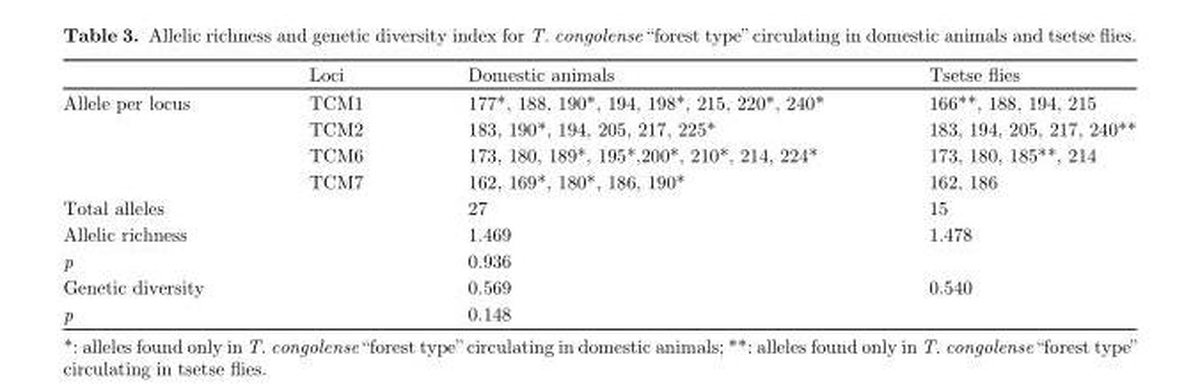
<table><thead><tr><td></td><td>Loci</td><td>Domestic animals</td><td>Tsetse flies</td></tr></thead><tbody><tr><td rowspan="4">Allele per locus</td><td>TCM1</td><td>177*, 188, 190*, 194, 198*, 215, 220*, 240*</td><td>166**, 188, 194, 215</td></tr><tr><td>TCM2</td><td>183, 190*, 194, 205, 217, 225*</td><td>183, 194, 205, 217, 240**</td></tr><tr><td>TCM6</td><td>173, 180, 189*, 195*,200*, 210*, 214, 224*</td><td>173, 180, 185**, 214</td></tr><tr><td>TCM7</td><td>162, 169*, 180*, 186, 190*</td><td>162, 186</td></tr><tr><td>Total alleles</td><td></td><td>27</td><td>15</td></tr><tr><td>Allelic richness</td><td></td><td>1.469</td><td>1.478</td></tr><tr><td>p</td><td></td><td colspan="2">0.936</td></tr><tr><td>Genetic diversity</td><td></td><td>0.569</td><td>0.540</td></tr><tr><td>p</td><td></td><td colspan="2">0.148</td></tr></tbody></table>